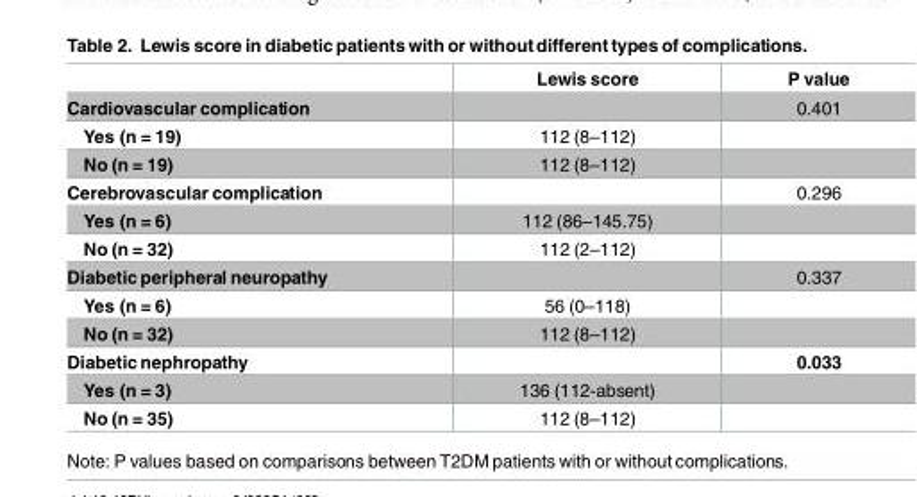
<table><thead><tr><td></td><td>Lewis score</td><td>P value</td></tr></thead><tbody><tr><td>Cardiovascular complication</td><td></td><td>0.401</td></tr><tr><td>Yes (n = 19)</td><td>112 (8–112)</td><td></td></tr><tr><td>No (n = 19)</td><td>112 (8–112)</td><td></td></tr><tr><td>Cerebrovascular complication</td><td></td><td>0.296</td></tr><tr><td>Yes (n = 6)</td><td>112 (86–145.75)</td><td></td></tr><tr><td>No (n = 32)</td><td>112 (2–112)</td><td></td></tr><tr><td>Diabetic peripheral neuropathy</td><td></td><td>0.337</td></tr><tr><td>Yes (n = 6)</td><td>56 (0–118)</td><td></td></tr><tr><td>No (n = 32)</td><td>112 (8–112)</td><td></td></tr><tr><td>Diabetic nephropathy</td><td></td><td>0.033</td></tr><tr><td>Yes (n = 3)</td><td>136 (112-absent)</td><td></td></tr><tr><td>No (n = 35)</td><td>112 (8–112)</td><td></td></tr></tbody></table>